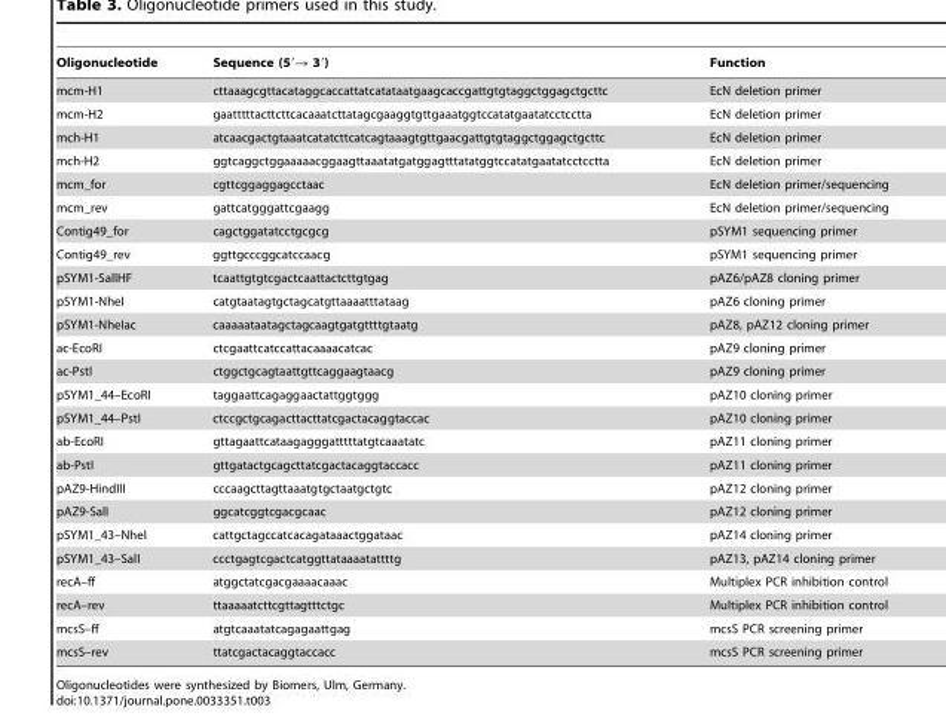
<table><thead><tr><td>Oligonucleotide</td><td>Sequence (5′→ 3′)</td><td>Function</td></tr></thead><tbody><tr><td>mcm-H1</td><td>cttaaagcgttacataggcaccattatcatataatgaagcaccgattgtgtaggctggagctgcttc</td><td>EcN deletion primer</td></tr><tr><td>mcm-H2</td><td>gaatttttacttcttcacaaatcttatagcgaaggtgttgaaatggtccatatgaatatcctcctta</td><td>EcN deletion primer</td></tr><tr><td>mch-H1</td><td>atcaacgactgtaaatcatatcttcatcagtaaagtgttgaacgattgtgtaggctggagctgcttc</td><td>EcN deletion primer</td></tr><tr><td>mch-H2</td><td>ggtcaggctggaaaaacggaagttaaatatgatggagtttatatggtccatatgaatatcctcctta</td><td>EcN deletion primer</td></tr><tr><td>mcm_for</td><td>cgttcggaggagcctaac</td><td>EcN deletion primer/sequencing</td></tr><tr><td>mcm_rev</td><td>gattcatgggattcgaagg</td><td>EcN deletion primer/sequencing</td></tr><tr><td>Contig49_for</td><td>cagctggatatcctgcgcg</td><td>pSYM1 sequencing primer</td></tr><tr><td>Contig49_rev</td><td>ggttgcccggcatccaacg</td><td>pSYM1 sequencing primer</td></tr><tr><td>pSYM1-SalIHF</td><td>tcaattgtgtcgactcaattactcttgtgag</td><td>pAZ6/pAZ8 cloning primer</td></tr><tr><td>pSYM1-NheI</td><td>catgtaatagtgctagcatgttaaaatttataag</td><td>pAZ6 cloning primer</td></tr><tr><td>pSYM1-NheIac</td><td>caaaaataatagctagcaagtgatgttttgtaatg</td><td>pAZ8, pAZ12 cloning primer</td></tr><tr><td>ac-EcoRI</td><td>ctcgaattcatccattacaaaacatcac</td><td>pAZ9 cloning primer</td></tr><tr><td>ac-PstI</td><td>ctggctgcagtaattgttcaggaagtaacg</td><td>pAZ9 cloning primer</td></tr><tr><td>pSYM1_44–EcoRI</td><td>taggaattcagaggaactattggtggg</td><td>pAZ10 cloning primer</td></tr><tr><td>pSYM1_44–PstI</td><td>ctccgctgcagacttacttatcgactacaggtaccac</td><td>pAZ10 cloning primer</td></tr><tr><td>ab-EcoRI</td><td>gttagaattcataagagggatttttatgtcaaatatc</td><td>pAZ11 cloning primer</td></tr><tr><td>ab-PstI</td><td>gttgatactgcagcttatcgactacaggtaccacc</td><td>pAZ11 cloning primer</td></tr><tr><td>pAZ9-HindIII</td><td>cccaagcttagttaaatgtgctaatgctgtc</td><td>pAZ12 cloning primer</td></tr><tr><td>pAZ9-SalI</td><td>ggcatcggtcgacgcaac</td><td>pAZ12 cloning primer</td></tr><tr><td>pSYM1_43–NheI</td><td>cattgctagccatcacagataaactggataac</td><td>pAZ14 cloning primer</td></tr><tr><td>pSYM1_43–SalI</td><td>ccctgagtcgactcatggttataaaatattttg</td><td>pAZ13, pAZ14 cloning primer</td></tr><tr><td>recA–ff</td><td>atggctatcgacgaaaacaaac</td><td>Multiplex PCR inhibition control</td></tr><tr><td>recA–rev</td><td>ttaaaaatcttcgttagtttctgc</td><td>Multiplex PCR inhibition control</td></tr><tr><td>mcsS–ff</td><td>atgtcaaatatcagagaattgag</td><td>mcsS PCR screening primer</td></tr><tr><td>mcsS–rev</td><td>ttatcgactacaggtaccacc</td><td>mcsS PCR screening primer</td></tr></tbody></table>